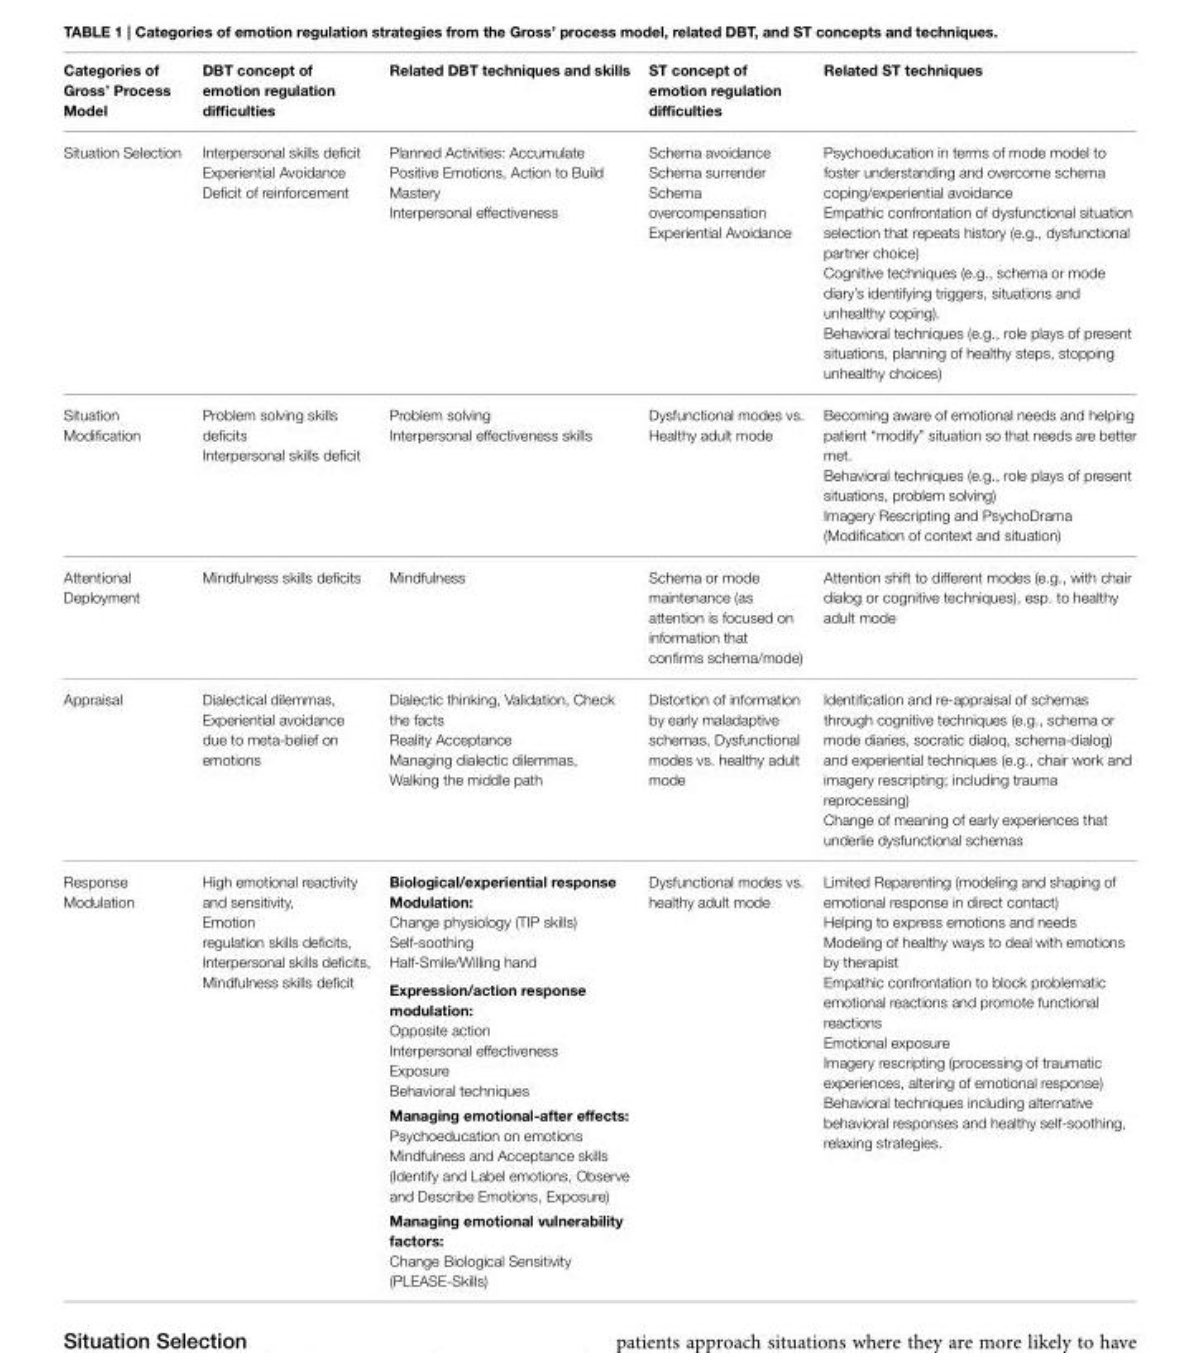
<table><thead><tr><td>Categories of Gross’ Process Model</td><td>DBT concept of emotion regulation difficulties</td><td>Related DBT techniques and skills</td><td>ST concept of emotion regulation difficulties</td><td>Related ST techniques</td></tr></thead><tbody><tr><td>Situation Selection</td><td>Interpersonal skills deficit Experiential Avoidance Deficit of reinforcement</td><td>Planned Activities: Accumulate Positive Emotions, Action to Build Mastery Interpersonal effectiveness</td><td>Schema avoidance Schema surrender Schema overcompensation Experiential Avoidance</td><td>Psychoeducation in terms of mode model to foster understanding and overcome schema coping/experiential avoidance Empathic confrontation of dysfunctional situation selection that repeats history (e.g., dysfunctional partner choice) Cognitive techniques (e.g., schema or mode diary’s identifying triggers, situations and unhealthy coping). Behavioral techniques (e.g., role plays of present situations, planning of healthy steps, stopping unhealthy choices)</td></tr><tr><td>Situation Modification</td><td>Problem solving skills deficits Interpersonal skills deficit</td><td>Problem solving Interpersonal effectiveness skills</td><td>Dysfunctional modes vs. Healthy adult mode</td><td>Becoming aware of emotional needs and helping patient “modify” situation so that needs are better met. Behavioral techniques (e.g., role plays of present situations, problem solving) Imagery Rescripting and PsychoDrama (Modification of context and situation)</td></tr><tr><td>Attentional Deployment</td><td>Mindfulness skills deficits</td><td>Mindfulness</td><td>Schema or mode maintenance (as attention is focused on information that confirms schema/mode)</td><td>Attention shift to different modes (e.g., with chair dialog or cognitive techniques), esp. to healthy adult mode</td></tr><tr><td>Appraisal</td><td>Dialectical dilemmas, Experiential avoidance due to meta-belief on emotions</td><td>Dialectic thinking, Validation, Check the facts Reality Acceptance Managing dialectic dilemmas, Walking the middle path</td><td>Distortion of information by early maladaptive schemas, Dysfunctional modes vs. healthy adult mode</td><td>Identification and re-appraisal of schemas through cognitive techniques (e.g., schema or mode diaries, socratic dialoq, schema-dialog) and experiential techniques (e.g., chair work and imagery rescripting; including trauma reprocessing) Change of meaning of early experiences that underlie dysfunctional schemas</td></tr><tr><td rowspan="4">Response Modulation</td><td rowspan="4">High emotional reactivity and sensitivity, Emotion regulation skills deficits, Interpersonal skills deficits, Mindfulness skills deficit</td><td>Biological/experiential response Modulation: Change physiology (TIP skills) Self-soothing Half-Smile/Willing hand</td><td rowspan="4">Dysfunctional modes vs. healthy adult mode</td><td rowspan="4">Limited Reparenting (modeling and shaping of emotional response in direct contact) Helping to express emotions and needs Modeling of healthy ways to deal with emotions by therapist Empathic confrontation to block problematic emotional reactions and promote functional reactions Emotional exposure Imagery rescripting (processing of traumatic experiences, altering of emotional response) Behavioral techniques including alternative behavioral responses and healthy self-soothing, relaxing strategies.</td></tr><tr><td>Expression/action response modulation: Opposite action Interpersonal effectiveness Exposure Behavioral techniques</td></tr><tr><td>Managing emotional-after effects: Psychoeducation on emotions Mindfulness and Acceptance skills (Identify and Label emotions, Observe and Describe Emotions, Exposure)</td></tr><tr><td>Managing emotional vulnerability factors: Change Biological Sensitivity (PLEASE-Skills)</td></tr></tbody></table>